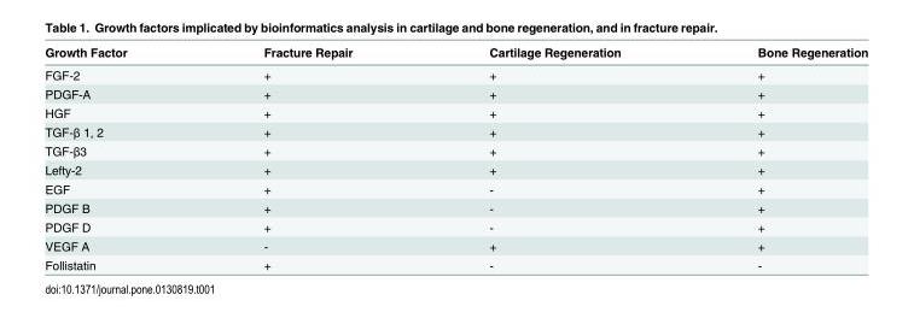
<table><thead><tr><td>Growth Factor</td><td>Fracture Repair</td><td>Cartilage Regeneration</td><td>Bone Regeneration</td></tr></thead><tbody><tr><td>FGF-2</td><td>+</td><td>+</td><td>+</td></tr><tr><td>PDGF-A</td><td>+</td><td>+</td><td>+</td></tr><tr><td>HGF</td><td>+</td><td>+</td><td>+</td></tr><tr><td>TGF-β 1, 2</td><td>+</td><td>+</td><td>+</td></tr><tr><td>TGF-β3</td><td>+</td><td>+</td><td>+</td></tr><tr><td>Lefty-2</td><td>+</td><td>+</td><td>+</td></tr><tr><td>EGF</td><td>+</td><td>-</td><td>+</td></tr><tr><td>PDGF B</td><td>+</td><td>-</td><td>+</td></tr><tr><td>PDGF D</td><td>+</td><td>-</td><td>+</td></tr><tr><td>VEGF A</td><td>-</td><td>+</td><td>+</td></tr><tr><td>Follistatin</td><td>+</td><td>-</td><td>-</td></tr></tbody></table>